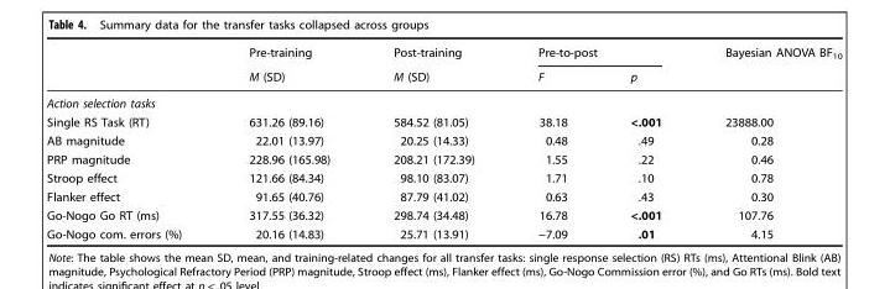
<table><thead><tr><td rowspan="2"></td><td rowspan="2">Pre-training M (SD)</td><td rowspan="2">Post-training M (SD)</td><td colspan="2">Pre-to-post</td><td rowspan="2">Bayesian ANOVA BF<sub>10</sub></td></tr><tr><td>F</td><td>p</td></tr></thead><tbody><tr><td colspan="6">Action selection tasks</td></tr><tr><td>Single RS Task (RT)</td><td>631.26 (89.16)</td><td>584.52 (81.05)</td><td>38.18</td><td>&lt;.001</td><td>23888.00</td></tr><tr><td>AB magnitude</td><td>22.01 (13.97)</td><td>20.25 (14.33)</td><td>0.48</td><td>.49</td><td>0.28</td></tr><tr><td>PRP magnitude</td><td>228.96 (165.98)</td><td>208.21 (172.39)</td><td>1.55</td><td>.22</td><td>0.46</td></tr><tr><td>Stroop effect</td><td>121.66 (84.34)</td><td>98.10 (83.07)</td><td>1.71</td><td>.10</td><td>0.78</td></tr><tr><td>Flanker effect</td><td>91.65 (40.76)</td><td>87.79 (41.02)</td><td>0.63</td><td>.43</td><td>0.30</td></tr><tr><td>Go-Nogo Go RT (ms)</td><td>317.55 (36.32)</td><td>298.74 (34.48)</td><td>16.78</td><td>&lt;.001</td><td>107.76</td></tr><tr><td>Go-Nogo com. errors (%)</td><td>20.16 (14.83)</td><td>25.71 (13.91)</td><td>−7.09</td><td>.01</td><td>4.15</td></tr></tbody></table>